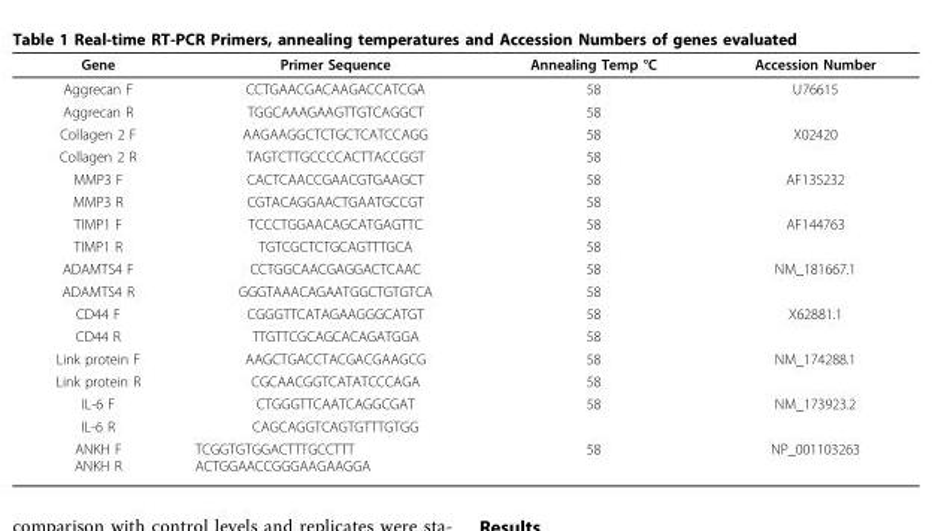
<table><thead><tr><td>Gene</td><td>Primer Sequence</td><td>Annealing Temp °C</td><td>Accession Number</td></tr></thead><tbody><tr><td>Aggrecan F</td><td>CCTGAACGACAAGACCATCGA</td><td>58</td><td>U76615</td></tr><tr><td>Aggrecan R</td><td>TGGCAAAGAAGTTGTCAGGCT</td><td>58</td><td></td></tr><tr><td>Collagen 2 F</td><td>AAGAAGGCTCTGCTCATCCAGG</td><td>58</td><td>X02420</td></tr><tr><td>Collagen 2 R</td><td>TAGTCTTGCCCCACTTACCGGT</td><td>58</td><td></td></tr><tr><td>MMP3 F</td><td>CACTCAACCGAACGTGAAGCT</td><td>58</td><td>AF135232</td></tr><tr><td>MMP3 R</td><td>CGTACAGGAACTGAATGCCGT</td><td>58</td><td></td></tr><tr><td>TIMP1 F</td><td>TCCCTGGAACAGCATGAGTTC</td><td>58</td><td>AF144763</td></tr><tr><td>TIMP1 R</td><td>TGTCGCTCTGCAGTTTGCA</td><td>58</td><td></td></tr><tr><td>ADAMTS4 F</td><td>CCTGGCAACGAGGACTCAAC</td><td>58</td><td>NM_181667.1</td></tr><tr><td>ADAMTS4 R</td><td>GGGTAAACAGAATGGCTGTGTCA</td><td>58</td><td></td></tr><tr><td>CD44 F</td><td>CGGGTTCATAGAAGGGCATGT</td><td>58</td><td>X62881.1</td></tr><tr><td>CD44 R</td><td>TTGTTCGCAGCACAGATGGA</td><td>58</td><td></td></tr><tr><td>Link protein F</td><td>AAGCTGACCTACGACGAAGCG</td><td>58</td><td>NM_174288.1</td></tr><tr><td>Link protein R</td><td>CGCAACGGTCATATCCCAGA</td><td>58</td><td></td></tr><tr><td>IL-6 F</td><td>CTGGGTTCAATCAGGCGAT</td><td>58</td><td>NM_173923.2</td></tr><tr><td>IL-6 R</td><td>CAGCAGGTCAGTGTTTGTGG</td><td></td><td></td></tr><tr><td>ANKH F ANKH R</td><td>TCGGTGTGGACTTTGCCTTT ACTGGAACCGGGAAGAAGGA</td><td>58</td><td>NP_001103263</td></tr></tbody></table>